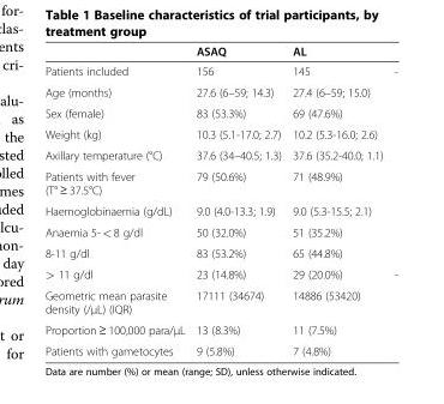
<table><thead><tr><td></td><td>ASAQ</td><td>AL</td><td></td></tr></thead><tbody><tr><td>Patients included</td><td>156</td><td>145</td><td>-</td></tr><tr><td>Age (months)</td><td>27.6 (6–59; 14.3)</td><td>27.4 (6–59; 15.0)</td><td></td></tr><tr><td>Sex (female)</td><td>83 (53.3%)</td><td>69 (47.6%)</td><td></td></tr><tr><td>Weight (kg)</td><td>10.3 (5.1-17.0; 2.7)</td><td>10.2 (5.3-16.0; 2.6)</td><td></td></tr><tr><td>Axillary temperature (°C)</td><td>37.6 (34–40.5; 1.3)</td><td>37.6 (35.2-40.0; 1.1)</td><td></td></tr><tr><td>Patients with fever (T° ≥ 37.5°C)</td><td>79 (50.6%)</td><td>71 (48.9%)</td><td></td></tr><tr><td>Haemoglobinaemia (g/dL)</td><td>9.0 (4.0-13.3; 1.9)</td><td>9.0 (5.3-15.5; 2.1)</td><td></td></tr><tr><td>Anaemia 5- &lt; 8 g/dl</td><td>50 (32.0%)</td><td>51 (35.2%)</td><td></td></tr><tr><td>8-11 g/dl</td><td>83 (53.2%)</td><td>65 (44.8%)</td><td></td></tr><tr><td>&gt; 11 g/dl</td><td>23 (14.8%)</td><td>29 (20.0%)</td><td>-</td></tr><tr><td>Geometric mean parasite density (/μL) (IQR)</td><td>17111 (34674)</td><td>14886 (53420)</td><td></td></tr><tr><td>Proportion ≥ 100,000 para/μL</td><td>13 (8.3%)</td><td>11 (7.5%)</td><td></td></tr><tr><td>Patients with gametocytes</td><td>9 (5.8%)</td><td>7 (4.8%)</td><td></td></tr></tbody></table>